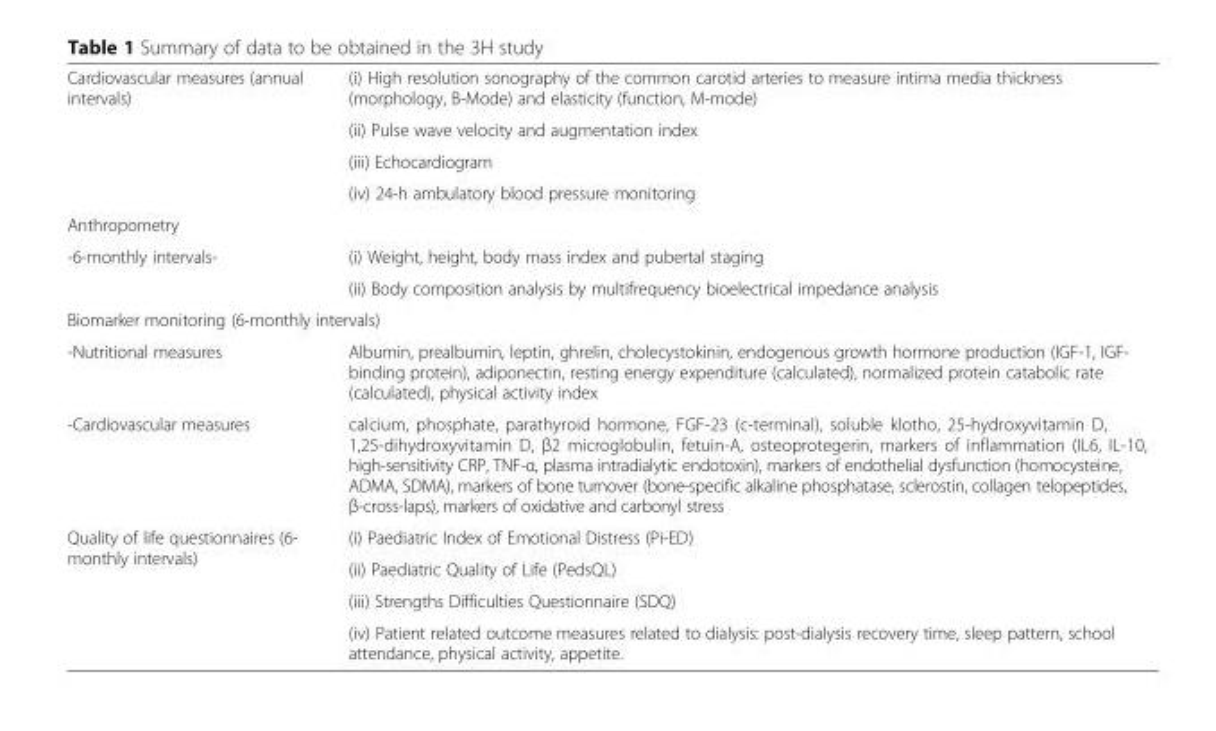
<table><tbody><tr><td rowspan="4">Cardiovascular measures (annual intervals)</td><td>(i) High resolution sonography of the common carotid arteries to measure intima media thickness (morphology, B-Mode) and elasticity (function, M-mode)</td></tr><tr><td>(ii) Pulse wave velocity and augmentation index</td></tr><tr><td>(iii) Echocardiogram</td></tr><tr><td>(iv) 24-h ambulatory blood pressure monitoring</td></tr><tr><td colspan="2">Anthropometry</td></tr><tr><td rowspan="2">-6-monthly intervals-</td><td>(i) Weight, height, body mass index and pubertal staging</td></tr><tr><td>(ii) Body composition analysis by multifrequency bioelectrical impedance analysis</td></tr><tr><td colspan="2">Biomarker monitoring (6-monthly intervals)</td></tr><tr><td>-Nutritional measures</td><td>Albumin, prealbumin, leptin, ghrelin, cholecystokinin, endogenous growth hormone production (IGF-1, IGF- binding protein), adiponectin, resting energy expenditure (calculated), normalized protein catabolic rate (calculated), physical activity index</td></tr><tr><td>-Cardiovascular measures</td><td>calcium, phosphate, parathyroid hormone, FGF-23 (c-terminal), soluble klotho, 25-hydroxyvitamin D, 1,25-dihydroxyvitamin D, β2 microglobulin, fetuin-A, osteoprotegerin, markers of inflammation (IL6, IL-10, high-sensitivity CRP, TNF-α, plasma intradialytic endotoxin), markers of endothelial dysfunction (homocysteine, ADMA, SDMA), markers of bone turnover (bone-specific alkaline phosphatase, sclerostin, collagen telopeptides, β-cross-laps), markers of oxidative and carbonyl stress</td></tr><tr><td rowspan="4">Quality of life questionnaires (6- monthly intervals)</td><td>(i) Paediatric Index of Emotional Distress (Pi-ED)</td></tr><tr><td>(ii) Paediatric Quality of Life (PedsQL)</td></tr><tr><td>(iii) Strengths Difficulties Questionnaire (SDQ)</td></tr><tr><td>(iv) Patient related outcome measures related to dialysis: post-dialysis recovery time, sleep pattern, school attendance, physical activity, appetite.</td></tr></tbody></table>